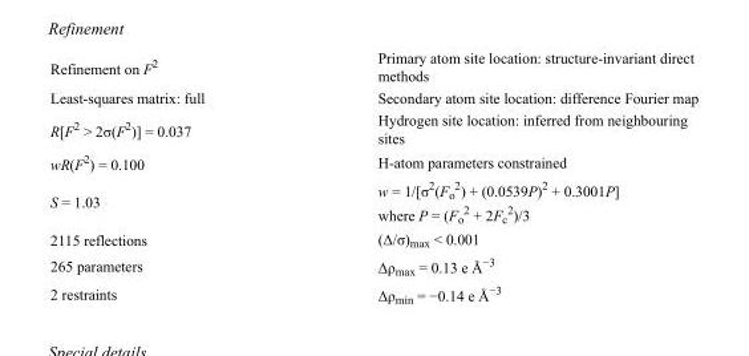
<table><tbody><tr><td>Refinement on F<sup>2</sup></td><td>Primary atom site location: structure-invariant direct methods</td></tr><tr><td>Least-squares matrix: full</td><td>Secondary atom site location: difference Fourier map</td></tr><tr><td>R[F<sup>2</sup> &gt; 2σ(F<sup>2</sup>)] = 0.037</td><td>Hydrogen site location: inferred from neighbouring sites</td></tr><tr><td>wR(F<sup>2</sup>) = 0.100</td><td>H-atom parameters constrained</td></tr><tr><td>S = 1.03</td><td>w = 1/[σ<sup>2</sup>(F<sub>o</sub> <sup>2</sup>) + (0.0539P)<sup>2</sup> + 0.3001P] where P = (F<sub>o</sub> <sup>2</sup> + 2F<sub>c</sub> <sup>2</sup>)/3</td></tr><tr><td>2115 reflections</td><td>(Δ/σ)<sub>max</sub> &lt; 0.001</td></tr><tr><td>265 parameters</td><td>Δρ<sub>max</sub> = 0.13 e Å<sup>−3</sup></td></tr><tr><td>2 restraints</td><td>Δρ<sub>min</sub> = −0.14 e Å<sup>−3</sup></td></tr></tbody></table>